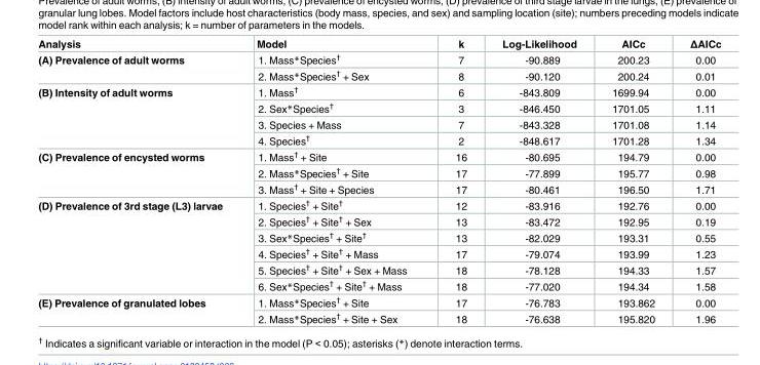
<table><thead><tr><td>Analysis</td><td>Model</td><td>k</td><td>Log-Likelihood</td><td>AICc</td><td>ΔAICc</td></tr></thead><tbody><tr><td rowspan="2">(A) Prevalence of adult worms</td><td>1. Mass*Species<sup>†</sup></td><td>7</td><td>-90.889</td><td>200.23</td><td>0.00</td></tr><tr><td>2. Mass*Species<sup>†</sup> + Sex</td><td>8</td><td>-90.120</td><td>200.24</td><td>0.01</td></tr><tr><td rowspan="4">(B) Intensity of adult worms</td><td>1. Mass<sup>†</sup></td><td>6</td><td>-843.809</td><td>1699.94</td><td>0.00</td></tr><tr><td>2. Sex*Species<sup>†</sup></td><td>3</td><td>-846.450</td><td>1701.05</td><td>1.11</td></tr><tr><td>3. Species + Mass</td><td>7</td><td>-843.328</td><td>1701.08</td><td>1.14</td></tr><tr><td>4. Species<sup>†</sup></td><td>2</td><td>-848.617</td><td>1701.28</td><td>1.34</td></tr><tr><td rowspan="3">(C) Prevalence of encysted worms</td><td>1. Mass<sup>†</sup> + Site</td><td>16</td><td>-80.695</td><td>194.79</td><td>0.00</td></tr><tr><td>2. Mass*Species<sup>†</sup> + Site</td><td>17</td><td>-77.899</td><td>195.77</td><td>0.98</td></tr><tr><td>3. Mass<sup>†</sup> + Site + Species</td><td>17</td><td>-80.461</td><td>196.50</td><td>1.71</td></tr><tr><td rowspan="6">(D) Prevalence of 3rd stage (L3) larvae</td><td>1. Species<sup>†</sup> + Site<sup>†</sup></td><td>12</td><td>-83.916</td><td>192.76</td><td>0.00</td></tr><tr><td>2. Species<sup>†</sup> + Site<sup>†</sup> + Sex</td><td>13</td><td>-83.472</td><td>192.95</td><td>0.19</td></tr><tr><td>3. Sex*Species<sup>†</sup> + Site<sup>†</sup></td><td>13</td><td>-82.029</td><td>193.31</td><td>0.55</td></tr><tr><td>4. Species<sup>†</sup> + Site<sup>†</sup> + Mass</td><td>17</td><td>-79.074</td><td>193.99</td><td>1.23</td></tr><tr><td>5. Species<sup>†</sup> + Site<sup>†</sup> + Sex + Mass</td><td>18</td><td>-78.128</td><td>194.33</td><td>1.57</td></tr><tr><td>6. Sex*Species<sup>†</sup> + Site<sup>†</sup> + Mass</td><td>18</td><td>-77.020</td><td>194.34</td><td>1.58</td></tr><tr><td rowspan="2">(E) Prevalence of granulated lobes</td><td>1. Mass*Species<sup>†</sup> + Site</td><td>17</td><td>-76.783</td><td>193.862</td><td>0.00</td></tr><tr><td>2. Mass*Species<sup>†</sup> + Site + Sex</td><td>18</td><td>-76.638</td><td>195.820</td><td>1.96</td></tr></tbody></table>